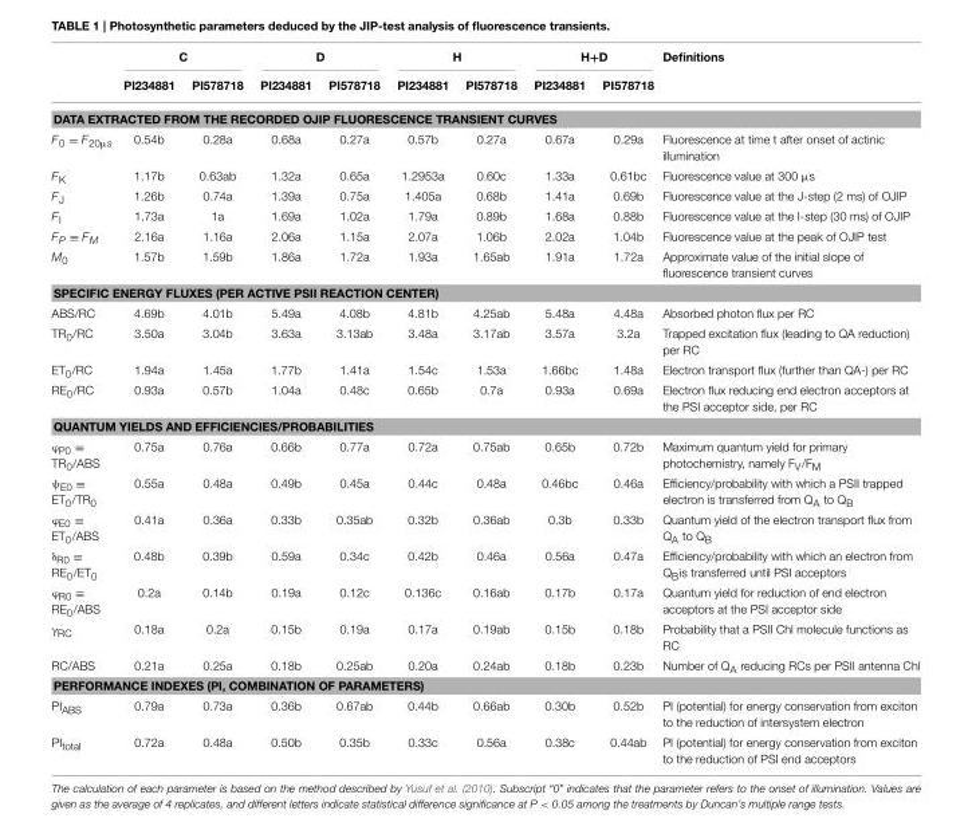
<table><thead><tr><td rowspan="2"></td><td colspan="2">C</td><td colspan="2">D</td><td colspan="2">H</td><td colspan="2">H+D</td><td rowspan="2">Definitions</td></tr><tr><td>PI234881</td><td>PI578718</td><td>PI234881</td><td>PI578718</td><td>PI234881</td><td>PI578718</td><td>PI234881</td><td>PI578718</td></tr></thead><tbody><tr><td colspan="10">DATA EXTRACTED FROM THE RECORDED OJIP FLUORESCENCE TRANSIENT CURVES</td></tr><tr><td>F<sub>0</sub> = F<sub>20µs</sub></td><td>0.54b</td><td>0.28a</td><td>0.68a</td><td>0.27a</td><td>0.57b</td><td>0.27a</td><td>0.67a</td><td>0.29a</td><td>Fluorescence at time t after onset of actinic illumination</td></tr><tr><td>F<sub>K</sub></td><td>1.17b</td><td>0.63ab</td><td>1.32a</td><td>0.65a</td><td>1.2953a</td><td>0.60c</td><td>1.33a</td><td>0.61bc</td><td>Fluorescence value at 300 µs</td></tr><tr><td>F<sub>J</sub></td><td>1.26b</td><td>0.74a</td><td>1.39a</td><td>0.75a</td><td>1.405a</td><td>0.68b</td><td>1.41a</td><td>0.69b</td><td>Fluorescence value at the J-step (2 ms) of OJIP</td></tr><tr><td>F<sub>I</sub></td><td>1.73a</td><td>1a</td><td>1.69a</td><td>1.02a</td><td>1.79a</td><td>0.89b</td><td>1.68a</td><td>0.88b</td><td>Fluorescence value at the I-step (30 ms) of OJIP</td></tr><tr><td>F<sub>P</sub> ≡ F<sub>M</sub></td><td>2.16a</td><td>1.16a</td><td>2.06a</td><td>1.15a</td><td>2.07a</td><td>1.06b</td><td>2.02a</td><td>1.04b</td><td>Fluorescence value at the peak of OJIP test</td></tr><tr><td>M<sub>0</sub></td><td>1.57b</td><td>1.59b</td><td>1.86a</td><td>1.72a</td><td>1.93a</td><td>1.65ab</td><td>1.91a</td><td>1.72a</td><td>Approximate value of the initial slope of fluorescence transient curves</td></tr><tr><td colspan="10">SPECIFIC ENERGY FLUXES (PER ACTIVE PSII REACTION CENTER)</td></tr><tr><td>ABS/RC</td><td>4.69b</td><td>4.01b</td><td>5.49a</td><td>4.08b</td><td>4.81b</td><td>4.25ab</td><td>5.48a</td><td>4.48a</td><td>Absorbed photon flux per RC</td></tr><tr><td>TR<sub>0</sub>/RC</td><td>3.50a</td><td>3.04b</td><td>3.63a</td><td>3.13ab</td><td>3.48a</td><td>3.17ab</td><td>3.57a</td><td>3.2a</td><td>Trapped excitation flux (leading to QA reduction) per RC</td></tr><tr><td>ET<sub>0</sub>/RC</td><td>1.94a</td><td>1.45a</td><td>1.77b</td><td>1.41a</td><td>1.54c</td><td>1.53a</td><td>1.66bc</td><td>1.48a</td><td>Electron transport flux (further than QA-) per RC</td></tr><tr><td>RE<sub>0</sub>/RC</td><td>0.93a</td><td>0.57b</td><td>1.04a</td><td>0.48c</td><td>0.65b</td><td>0.7a</td><td>0.93a</td><td>0.69a</td><td>Electron flux reducing end electron acceptors at the PSI acceptor side, per RC</td></tr><tr><td colspan="10">QUANTUM YIELDS AND EFFICIENCIES/PROBABILITIES</td></tr><tr><td>ϕ<sub>P0</sub> ≡ TR<sub>0</sub>/ABS</td><td>0.75a</td><td>0.76a</td><td>0.66b</td><td>0.77a</td><td>0.72a</td><td>0.75ab</td><td>0.65b</td><td>0.72b</td><td>Maximum quantum yield for primary photochemistry, namely F<sub>V</sub>/F<sub>M</sub></td></tr><tr><td>ψ<sub>E0</sub> ≡ ET<sub>0</sub>/TR<sub>0</sub></td><td>0.55a</td><td>0.48a</td><td>0.49b</td><td>0.45a</td><td>0.44c</td><td>0.48a</td><td>0.46bc</td><td>0.46a</td><td>Efficiency/probability with which a PSII trapped electron is transferred from Q<sub>A</sub> to Q<sub>B</sub></td></tr><tr><td>ϕ<sub>E0</sub> ≡ ET<sub>0</sub>/ABS</td><td>0.41a</td><td>0.36a</td><td>0.33b</td><td>0.35ab</td><td>0.32b</td><td>0.36ab</td><td>0.3b</td><td>0.33b</td><td>Quantum yield of the electron transport flux from Q<sub>A</sub> to Q<sub>B</sub></td></tr><tr><td>δ<sub>R0</sub> ≡ RE<sub>0</sub>/ET<sub>0</sub></td><td>0.48b</td><td>0.39b</td><td>0.59a</td><td>0.34c</td><td>0.42b</td><td>0.46a</td><td>0.56a</td><td>0.47a</td><td>Efficiency/probability with which an electron from Q<sub>B</sub>is transferred until PSI acceptors</td></tr><tr><td>ϕ<sub>R0</sub> ≡ RE<sub>0</sub>/ABS</td><td>0.2a</td><td>0.14b</td><td>0.19a</td><td>0.12c</td><td>0.136c</td><td>0.16ab</td><td>0.17b</td><td>0.17a</td><td>Quantum yield for reduction of end electron acceptors at the PSI acceptor side</td></tr><tr><td>γ<sub>RC</sub></td><td>0.18a</td><td>0.2a</td><td>0.15b</td><td>0.19a</td><td>0.17a</td><td>0.19ab</td><td>0.15b</td><td>0.18b</td><td>Probability that a PSII Chl molecule functions as RC</td></tr><tr><td>RC/ABS</td><td>0.21a</td><td>0.25a</td><td>0.18b</td><td>0.25ab</td><td>0.20a</td><td>0.24ab</td><td>0.18b</td><td>0.23b</td><td>Number of Q<sub>A</sub> reducing RCs per PSII antenna Chl</td></tr><tr><td colspan="10">PERFORMANCE INDEXES (PI, COMBINATION OF PARAMETERS)</td></tr><tr><td>PI<sub>ABS</sub></td><td>0.79a</td><td>0.73a</td><td>0.36b</td><td>0.67ab</td><td>0.44b</td><td>0.66ab</td><td>0.30b</td><td>0.52b</td><td>PI (potential) for energy conservation from exciton to the reduction of intersystem electron</td></tr><tr><td>PI<sub>total</sub></td><td>0.72a</td><td>0.48a</td><td>0.50b</td><td>0.35b</td><td>0.33c</td><td>0.56a</td><td>0.38c</td><td>0.44ab</td><td>PI (potential) for energy conservation from exciton to the reduction of PSI end acceptors</td></tr></tbody></table>